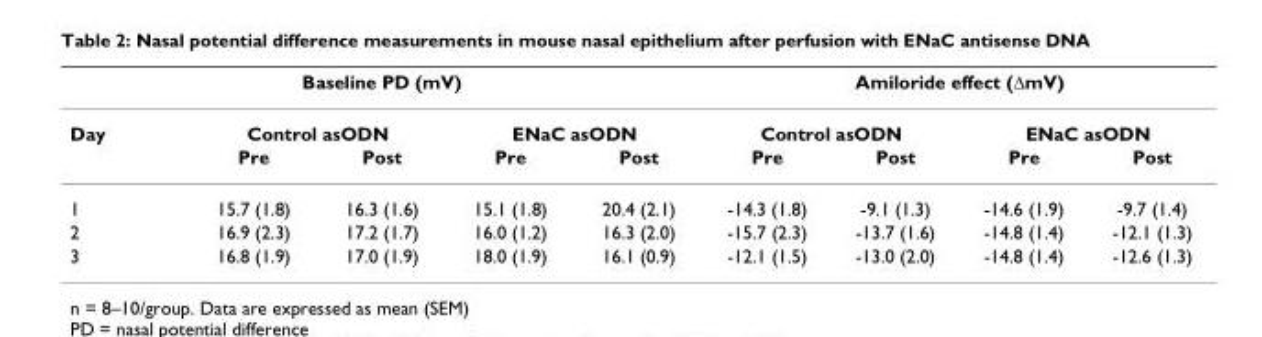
<table><thead><tr><td colspan="5">Baseline PD (mV)</td><td colspan="4">Amiloride effect (∆mV)</td></tr><tr><td rowspan="2">Day</td><td colspan="2">Control asODN</td><td colspan="2">ENaC asODN</td><td colspan="2">Control asODN</td><td colspan="2">ENaC asODN</td></tr><tr><td>Pre</td><td>Post</td><td>Pre</td><td>Post</td><td>Pre</td><td>Post</td><td>Pre</td><td>Post</td></tr></thead><tbody><tr><td>1</td><td>15.7 (1.8)</td><td>16.3 (1.6)</td><td>15.1 (1.8)</td><td>20.4 (2.1)</td><td>-14.3 (1.8)</td><td>-9.1 (1.3)</td><td>-14.6 (1.9)</td><td>-9.7 (1.4)</td></tr><tr><td>2</td><td>16.9 (2.3)</td><td>17.2 (1.7)</td><td>16.0 (1.2)</td><td>16.3 (2.0)</td><td>-15.7 (2.3)</td><td>-13.7 (1.6)</td><td>-14.8 (1.4)</td><td>-12.1 (1.3)</td></tr><tr><td>3</td><td>16.8 (1.9)</td><td>17.0 (1.9)</td><td>18.0 (1.9)</td><td>16.1 (0.9)</td><td>-12.1 (1.5)</td><td>-13.0 (2.0)</td><td>-14.8 (1.4)</td><td>-12.6 (1.3)</td></tr></tbody></table>